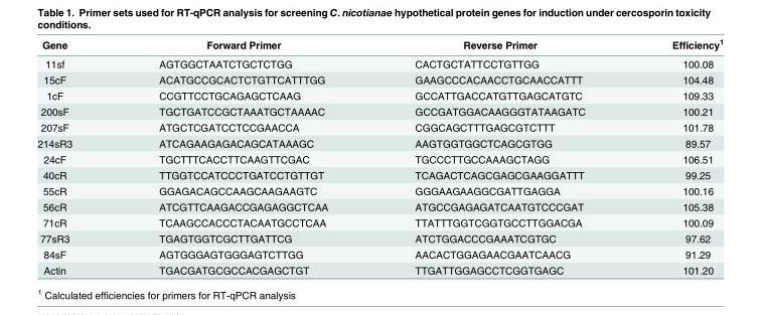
<table><thead><tr><td>Gene</td><td>Forward Primer</td><td>Reverse Primer</td><td>Efficiency<sup>1</sup></td></tr></thead><tbody><tr><td>11sf</td><td>AGTGGCTAATCTGCTCTGG</td><td>CACTGCTATTCCTGTTGG</td><td>100.08</td></tr><tr><td>15cF</td><td>ACATGCCGCACTCTGTTCATTTGG</td><td>GAAGCCCACAACCTGCAACCATTT</td><td>104.48</td></tr><tr><td>1cF</td><td>CCGTTCCTGCAGAGCTCAAG</td><td>GCCATTGACCATGTTGAGCATGTC</td><td>109.33</td></tr><tr><td>200sF</td><td>TGCTGATCCGCTAAATGCTAAAAC</td><td>GCCGATGGACAAGGGTATAAGATC</td><td>100.21</td></tr><tr><td>207sF</td><td>ATGCTCGATCCTCCGAACCA</td><td>CGGCAGCTTTGAGCGTCTTT</td><td>101.78</td></tr><tr><td>214sR3</td><td>ATCAGAAGAGACAGCATAAAGC</td><td>AAGTGGTGGCTCAGCGTGG</td><td>89.57</td></tr><tr><td>24cF</td><td>TGCTTTCACCTTCAAGTTCGAC</td><td>TGCCCTTGCCAAAGCTAGG</td><td>106.51</td></tr><tr><td>40cR</td><td>TTGGTCCATCCCTGATCCTGTTGT</td><td>TCAGACTCAGCGAGCGAAGGATTT</td><td>99.25</td></tr><tr><td>55cR</td><td>GGAGACAGCCAAGCAAGAAGTC</td><td>GGGAAGAAGGCGATTGAGGA</td><td>100.16</td></tr><tr><td>56cR</td><td>ATCGTTCAAGACCGAGAGGCTCAA</td><td>ATGCCGAGAGATCAATGTCCCGAT</td><td>105.38</td></tr><tr><td>71cR</td><td>TCAAGCCACCCTACAATGCCTCAA</td><td>TTATTTGGTCGGTGCCTTGGACGA</td><td>100.09</td></tr><tr><td>77sR3</td><td>TGAGTGGTCGCTTGATTCG</td><td>ATCTGGACCCGAAATCGTGC</td><td>97.62</td></tr><tr><td>84sF</td><td>AGTGGGAGTGGGAGTCTTGG</td><td>AACACTGGAGAACGAATCAACG</td><td>91.29</td></tr><tr><td>Actin</td><td>TGACGATGCGCCACGAGCTGT</td><td>TTGATTGGAGCCTCGGTGAGC</td><td>101.20</td></tr></tbody></table>